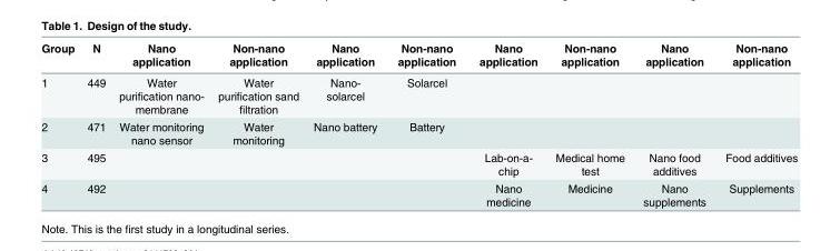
<table><thead><tr><td>Group</td><td>N</td><td>Nano application</td><td>Non-nano application</td><td>Nano application</td><td>Non-nano application</td><td>Nano application</td><td>Non-nano application</td><td>Nano application</td><td>Non-nano application</td></tr></thead><tbody><tr><td>1</td><td>449</td><td>Water purification nano- membrane</td><td>Water purification sand filtration</td><td>Nano- solarcel</td><td>Solarcel</td><td></td><td></td><td></td><td></td></tr><tr><td>2</td><td>471</td><td>Water monitoring nano sensor</td><td>Water monitoring</td><td>Nano battery</td><td>Battery</td><td></td><td></td><td></td><td></td></tr><tr><td>3</td><td>495</td><td></td><td></td><td></td><td></td><td>Lab-on-a- chip</td><td>Medical home test</td><td>Nano food additives</td><td>Food additives</td></tr><tr><td>4</td><td>492</td><td></td><td></td><td></td><td></td><td>Nano medicine</td><td>Medicine</td><td>Nano supplements</td><td>Supplements</td></tr></tbody></table>